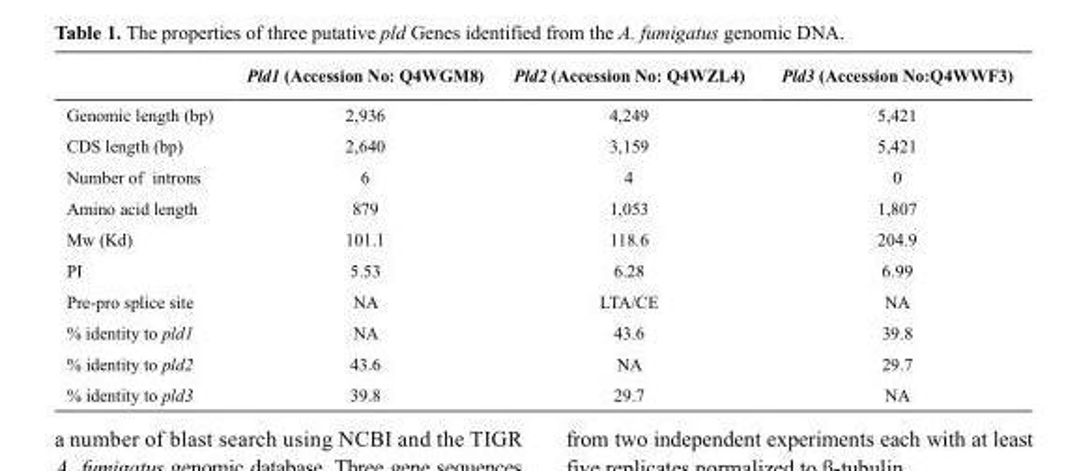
<table><thead><tr><td></td><td>Pld1 (Accession No: Q4WGM8)</td><td>Pld2 (Accession No: Q4WZL4)</td><td>Pld3 (Accession No:Q4WWf3)</td></tr></thead><tbody><tr><td>Genomic length (bp)</td><td>2,936</td><td>4,249</td><td>5,421</td></tr><tr><td>CDS length (bp)</td><td>2,640</td><td>3,159</td><td>5,421</td></tr><tr><td>Number of introns</td><td>6</td><td>4</td><td>0</td></tr><tr><td>Amino acid length</td><td>879</td><td>1,053</td><td>1,807</td></tr><tr><td>Mw (Kd)</td><td>101.1</td><td>118.6</td><td>204.9</td></tr><tr><td>PI</td><td>5.53</td><td>6.28</td><td>6.99</td></tr><tr><td>Pre-pro splice site</td><td>NA</td><td>LTA/CE</td><td>NA</td></tr><tr><td>% identity to pld1</td><td>NA</td><td>43.6</td><td>39.8</td></tr><tr><td>% identity to pld2</td><td>43.6</td><td>NA</td><td>29.7</td></tr><tr><td>% identity to pld3</td><td>39.8</td><td>29.7</td><td>NA</td></tr></tbody></table>